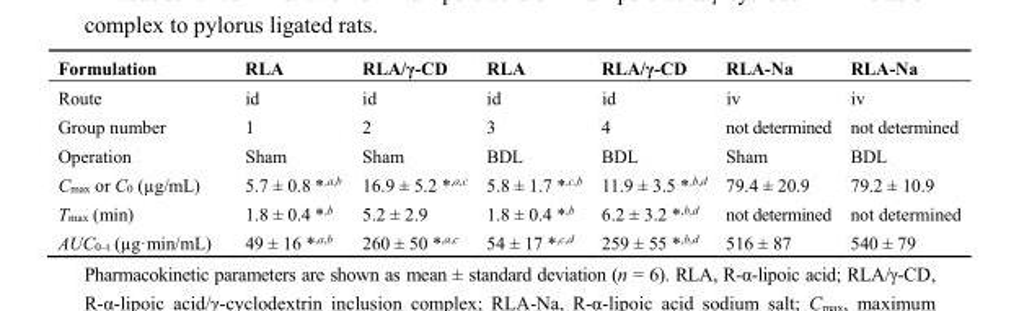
<table><thead><tr><td>Formulation</td><td>RLA</td><td>RLA/γ-CD</td><td>RLA</td><td>RLA/γ-CD</td><td>RLA-Na</td><td>RLA-Na</td></tr></thead><tbody><tr><td>Route</td><td>id</td><td>id</td><td>id</td><td>id</td><td>iv</td><td>iv</td></tr><tr><td>Group number</td><td>1</td><td>2</td><td>3</td><td>4</td><td>not determined</td><td>not determined</td></tr><tr><td>Operation</td><td>Sham</td><td>Sham</td><td>BDL</td><td>BDL</td><td>Sham</td><td>BDL</td></tr><tr><td>C<sub>max</sub> or C<sub>0</sub> (µg/mL)</td><td>5.7 ± 0.8 *<sup>,a,b</sup></td><td>16.9 ± 5.2 *<sup>,a,c</sup></td><td>5.8 ± 1.7 *<sup>,c,b</sup></td><td>11.9 ± 3.5 *<sup>,b,d</sup></td><td>79.4 ± 20.9</td><td>79.2 ± 10.9</td></tr><tr><td>T<sub>max</sub> (min)</td><td>1.8 ± 0.4 *<sup>,b</sup></td><td>5.2 ± 2.9</td><td>1.8 ± 0.4 *<sup>,b</sup></td><td>6.2 ± 3.2 *<sup>,b,d</sup></td><td>not determined</td><td>not determined</td></tr><tr><td>AUC<sub>0–t</sub> (µg·min/mL)</td><td>49 ± 16 *<sup>,a,b</sup></td><td>260 ± 50 *<sup>,a,c</sup></td><td>54 ± 17 *<sup>,c,d</sup></td><td>259 ± 55 *<sup>,b,d</sup></td><td>516 ± 87</td><td>540 ± 79</td></tr></tbody></table>